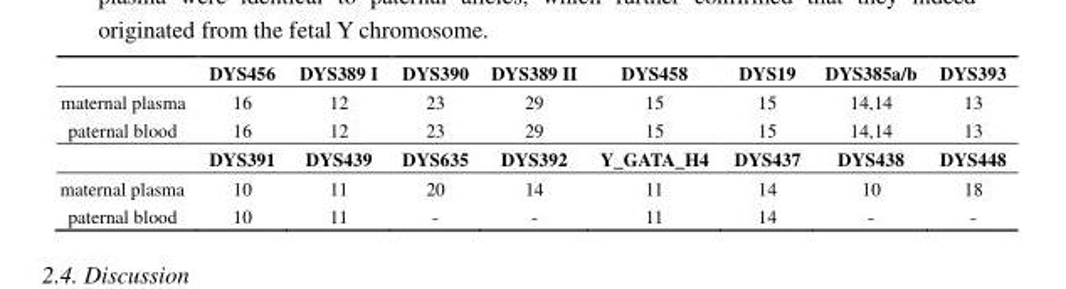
<table><thead><tr><td></td><td>DYS456</td><td>DYS389 I</td><td>DYS390</td><td>DYS389 II</td><td>DYS458</td><td>DYS19</td><td>DYS385a/b</td><td>DYS393</td></tr></thead><tbody><tr><td>maternal plasma</td><td>16</td><td>12</td><td>23</td><td>29</td><td>15</td><td>15</td><td>14,14</td><td>13</td></tr><tr><td rowspan="2">paternal blood</td><td>16</td><td>12</td><td>23</td><td>29</td><td>15</td><td>15</td><td>14,14</td><td>13</td></tr><tr><td>DYS391</td><td>DYS439</td><td>DYS635</td><td>DYS392</td><td>Y_GATA_H4</td><td>DYS437</td><td>DYS438</td><td>DYS448</td></tr><tr><td>maternal plasma</td><td>10</td><td>11</td><td>20</td><td>14</td><td>11</td><td>14</td><td>10</td><td>18</td></tr><tr><td>paternal blood</td><td>10</td><td>11</td><td>-</td><td>-</td><td>11</td><td>14</td><td>-</td><td>-</td></tr></tbody></table>